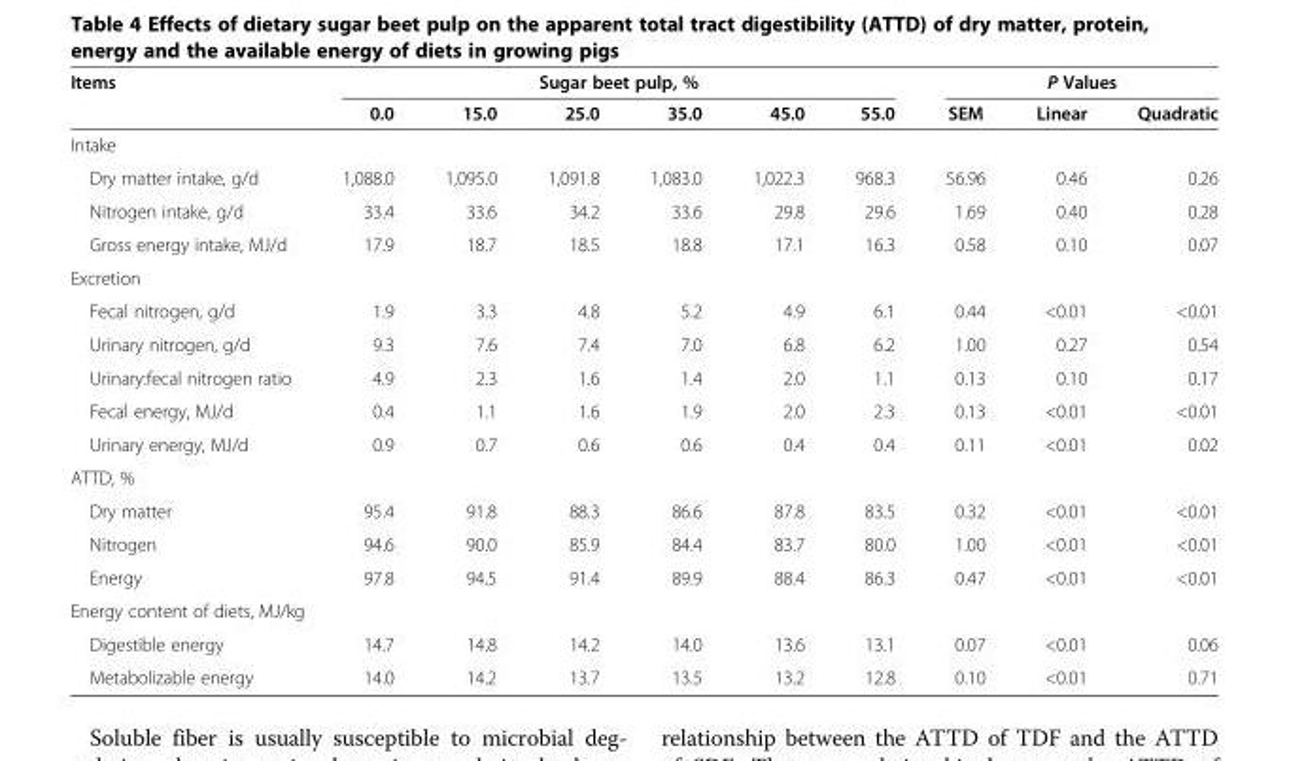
<table><thead><tr><td rowspan="2">Items</td><td colspan="6">Sugar beet pulp, %</td><td colspan="3">P Values</td></tr><tr><td>0.0</td><td>15.0</td><td>25.0</td><td>35.0</td><td>45.0</td><td>55.0</td><td>SEM</td><td>Linear</td><td>Quadratic</td></tr></thead><tbody><tr><td colspan="10">Intake</td></tr><tr><td>Dry matter intake, g/d</td><td>1,088.0</td><td>1,095.0</td><td>1,091.8</td><td>1,083.0</td><td>1,022.3</td><td>968.3</td><td>56.96</td><td>0.46</td><td>0.26</td></tr><tr><td>Nitrogen intake, g/d</td><td>33.4</td><td>33.6</td><td>34.2</td><td>33.6</td><td>29.8</td><td>29.6</td><td>1.69</td><td>0.40</td><td>0.28</td></tr><tr><td>Gross energy intake, MJ/d</td><td>17.9</td><td>18.7</td><td>18.5</td><td>18.8</td><td>17.1</td><td>16.3</td><td>0.58</td><td>0.10</td><td>0.07</td></tr><tr><td colspan="10">Excretion</td></tr><tr><td>Fecal nitrogen, g/d</td><td>1.9</td><td>3.3</td><td>4.8</td><td>5.2</td><td>4.9</td><td>6.1</td><td>0.44</td><td>&lt;0.01</td><td>&lt;0.01</td></tr><tr><td>Urinary nitrogen, g/d</td><td>9.3</td><td>7.6</td><td>7.4</td><td>7.0</td><td>6.8</td><td>6.2</td><td>1.00</td><td>0.27</td><td>0.54</td></tr><tr><td>Urinary:fecal nitrogen ratio</td><td>4.9</td><td>2.3</td><td>1.6</td><td>1.4</td><td>2.0</td><td>1.1</td><td>0.13</td><td>0.10</td><td>0.17</td></tr><tr><td>Fecal energy, MJ/d</td><td>0.4</td><td>1.1</td><td>1.6</td><td>1.9</td><td>2.0</td><td>2.3</td><td>0.13</td><td>&lt;0.01</td><td>&lt;0.01</td></tr><tr><td>Urinary energy, MJ/d</td><td>0.9</td><td>0.7</td><td>0.6</td><td>0.6</td><td>0.4</td><td>0.4</td><td>0.11</td><td>&lt;0.01</td><td>0.02</td></tr><tr><td colspan="10">ATTD, %</td></tr><tr><td>Dry matter</td><td>95.4</td><td>91.8</td><td>88.3</td><td>86.6</td><td>87.8</td><td>83.5</td><td>0.32</td><td>&lt;0.01</td><td>&lt;0.01</td></tr><tr><td>Nitrogen</td><td>94.6</td><td>90.0</td><td>85.9</td><td>84.4</td><td>83.7</td><td>80.0</td><td>1.00</td><td>&lt;0.01</td><td>&lt;0.01</td></tr><tr><td>Energy</td><td>97.8</td><td>94.5</td><td>91.4</td><td>89.9</td><td>88.4</td><td>86.3</td><td>0.47</td><td>&lt;0.01</td><td>&lt;0.01</td></tr><tr><td colspan="10">Energy content of diets, MJ/kg</td></tr><tr><td>Digestible energy</td><td>14.7</td><td>14.8</td><td>14.2</td><td>14.0</td><td>13.6</td><td>13.1</td><td>0.07</td><td>&lt;0.01</td><td>0.06</td></tr><tr><td>Metabolizable energy</td><td>14.0</td><td>14.2</td><td>13.7</td><td>13.5</td><td>13.2</td><td>12.8</td><td>0.10</td><td>&lt;0.01</td><td>0.71</td></tr></tbody></table>